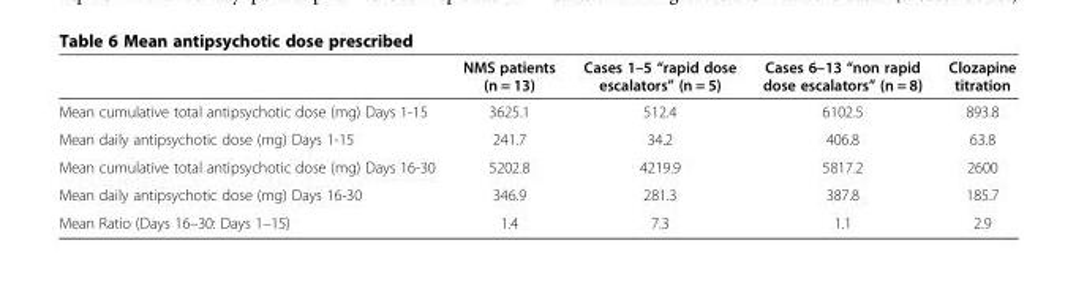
<table><thead><tr><td></td><td>NMS patients (n = 13)</td><td>Cases 1–5 “rapid dose escalators” (n = 5)</td><td>Cases 6–13 “non rapid dose escalators” (n = 8)</td><td>Clozapine titration</td></tr></thead><tbody><tr><td>Mean cumulative total antipsychotic dose (mg) Days 1-15</td><td>3625.1</td><td>512.4</td><td>6102.5</td><td>893.8</td></tr><tr><td>Mean daily antipsychotic dose (mg) Days 1-15</td><td>241.7</td><td>34.2</td><td>406.8</td><td>63.8</td></tr><tr><td>Mean cumulative total antipsychotic dose (mg) Days 16-30</td><td>5202.8</td><td>4219.9</td><td>5817.2</td><td>2600</td></tr><tr><td>Mean daily antipsychotic dose (mg) Days 16-30</td><td>346.9</td><td>281.3</td><td>387.8</td><td>185.7</td></tr><tr><td>Mean Ratio (Days 16–30: Days 1–15)</td><td>1.4</td><td>7.3</td><td>1.1</td><td>2.9</td></tr></tbody></table>